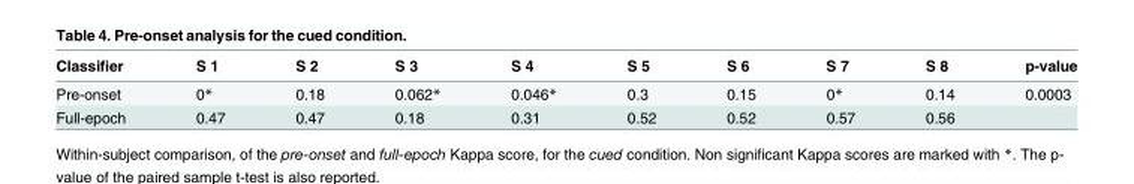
<table><thead><tr><td>Classifier</td><td>S 1</td><td>S 2</td><td>S 3</td><td>S 4</td><td>S 5</td><td>S 6</td><td>S 7</td><td>S 8</td><td>p-value</td></tr></thead><tbody><tr><td>Pre-onset</td><td>0*</td><td>0.18</td><td>0.062*</td><td>0.046*</td><td>0.3</td><td>0.15</td><td>0*</td><td>0.14</td><td>0.0003</td></tr><tr><td>Full-epoch</td><td>0.47</td><td>0.47</td><td>0.18</td><td>0.31</td><td>0.52</td><td>0.52</td><td>0.57</td><td>0.56</td><td></td></tr></tbody></table>